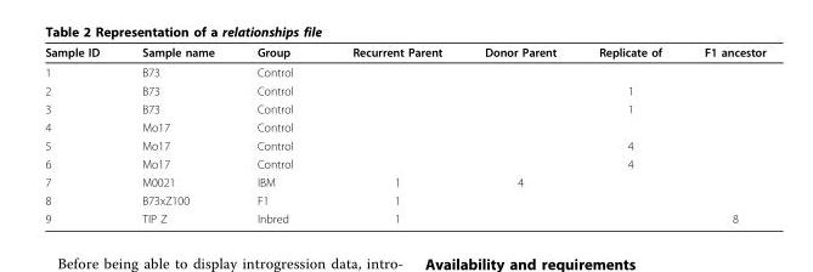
<table><thead><tr><td>Sample ID</td><td>Sample name</td><td>Group</td><td>Recurrent Parent</td><td>Donor Parent</td><td>Replicate of</td><td>F1 ancestor</td></tr></thead><tbody><tr><td>1</td><td>B73</td><td>Control</td><td></td><td></td><td></td><td></td></tr><tr><td>2</td><td>B73</td><td>Control</td><td></td><td></td><td>1</td><td></td></tr><tr><td>3</td><td>B73</td><td>Control</td><td></td><td></td><td>1</td><td></td></tr><tr><td>4</td><td>Mo17</td><td>Control</td><td></td><td></td><td></td><td></td></tr><tr><td>5</td><td>Mo17</td><td>Control</td><td></td><td></td><td>4</td><td></td></tr><tr><td>6</td><td>Mo17</td><td>Control</td><td></td><td></td><td>4</td><td></td></tr><tr><td>7</td><td>M0021</td><td>IBM</td><td>1</td><td>4</td><td></td><td></td></tr><tr><td>8</td><td>B73xZ100</td><td>F1</td><td>1</td><td></td><td></td><td></td></tr><tr><td>9</td><td>TIP Z</td><td>Inbred</td><td>1</td><td></td><td></td><td>8</td></tr></tbody></table>